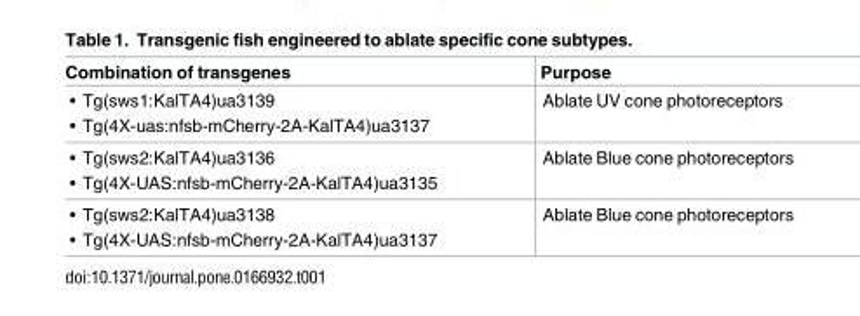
<table><thead><tr><td>Combination of transgenes</td><td>Purpose</td></tr></thead><tbody><tr><td>• Tg(sws1:KalTA4)ua3139 • Tg(4X-uas:nfsb-mCherry-2A-KalTA4)ua3137</td><td>Ablate UV cone photoreceptors</td></tr><tr><td>• Tg(sws2:KalTA4)ua3136 • Tg(4X-UAS:nfsb-mCherry-2A-KalTA4)ua3135</td><td>Ablate Blue cone photoreceptors</td></tr><tr><td>• Tg(sws2:KalTA4)ua3138 • Tg(4X-UAS:nfsb-mCherry-2A-KalTA4)ua3137</td><td>Ablate Blue cone photoreceptors</td></tr></tbody></table>